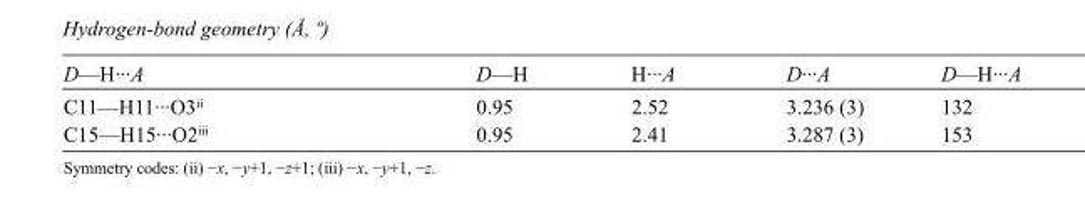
<table><tbody><tr><td>D—H···A</td><td>D—H</td><td>H···A</td><td>D···A</td><td>D—H···A</td></tr><tr><td>C11—H11···O3<sup>ii</sup></td><td>0.95</td><td>2.52</td><td>3.236 (3)</td><td>132</td></tr><tr><td>C15—H15···O2<sup>iii</sup></td><td>0.95</td><td>2.41</td><td>3.287 (3)</td><td>153</td></tr></tbody></table>